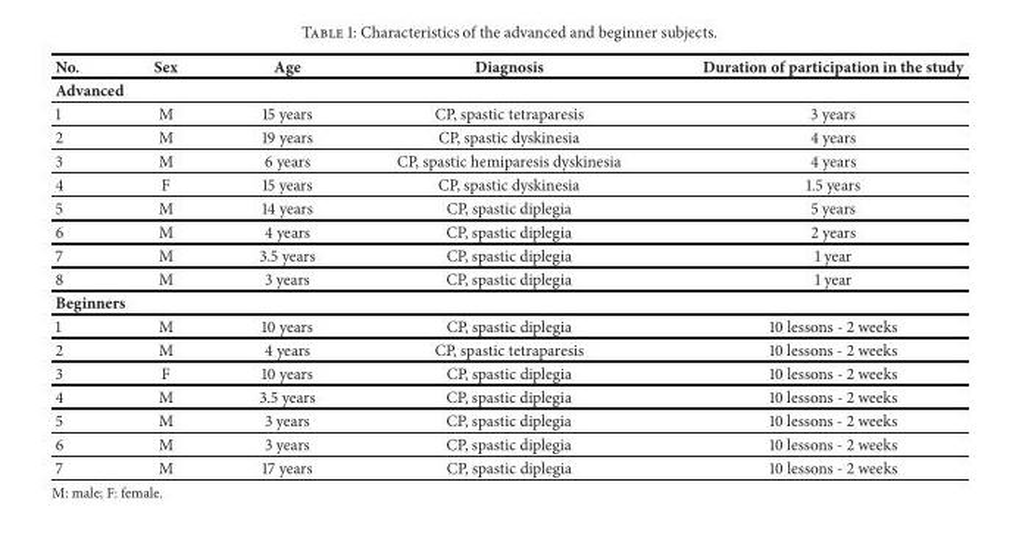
<table><thead><tr><td>No.</td><td>Sex</td><td>Age</td><td>Diagnosis</td><td>Duration of participation in the study</td></tr></thead><tbody><tr><td colspan="5">Advanced</td></tr><tr><td>1</td><td>M</td><td>15 years</td><td>CP, spastic tetraparesis</td><td>3 years</td></tr><tr><td>2</td><td>M</td><td>19 years</td><td>CP, spastic dyskinesia</td><td>4 years</td></tr><tr><td>3</td><td>M</td><td>6 years</td><td>CP, spastic hemiparesis dyskinesia</td><td>4 years</td></tr><tr><td>4</td><td>F</td><td>15 years</td><td>CP, spastic dyskinesia</td><td>1.5 years</td></tr><tr><td>5</td><td>M</td><td>14 years</td><td>CP, spastic diplegia</td><td>5 years</td></tr><tr><td>6</td><td>M</td><td>4 years</td><td>CP, spastic diplegia</td><td>2 years</td></tr><tr><td>7</td><td>M</td><td>3.5 years</td><td>CP, spastic diplegia</td><td>1 year</td></tr><tr><td>8</td><td>M</td><td>3 years</td><td>CP, spastic diplegia</td><td>1 year</td></tr><tr><td colspan="5">Beginners</td></tr><tr><td>1</td><td>M</td><td>10 years</td><td>CP, spastic diplegia</td><td>10 lessons - 2 weeks</td></tr><tr><td>2</td><td>M</td><td>4 years</td><td>CP, spastic tetraparesis</td><td>10 lessons - 2 weeks</td></tr><tr><td>3</td><td>F</td><td>10 years</td><td>CP, spastic diplegia</td><td>10 lessons - 2 weeks</td></tr><tr><td>4</td><td>M</td><td>3.5 years</td><td>CP, spastic diplegia</td><td>10 lessons - 2 weeks</td></tr><tr><td>5</td><td>M</td><td>3 years</td><td>CP, spastic diplegia</td><td>10 lessons - 2 weeks</td></tr><tr><td>6</td><td>M</td><td>3 years</td><td>CP, spastic diplegia</td><td>10 lessons - 2 weeks</td></tr><tr><td>7</td><td>M</td><td>17 years</td><td>CP, spastic diplegia</td><td>10 lessons - 2 weeks</td></tr></tbody></table>